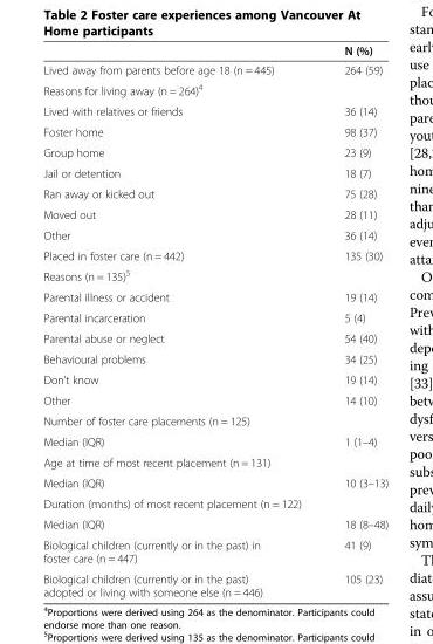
<table><thead><tr><td></td><td>N (%)</td></tr></thead><tbody><tr><td>Lived away from parents before age 18 (n = 445)</td><td>264 (59)</td></tr><tr><td colspan="2">Reasons for living away (n = 264)<sup>4</sup></td></tr><tr><td>Lived with relatives or friends</td><td>36 (14)</td></tr><tr><td>Foster home</td><td>98 (37)</td></tr><tr><td>Group home</td><td>23 (9)</td></tr><tr><td>Jail or detention</td><td>18 (7)</td></tr><tr><td>Ran away or kicked out</td><td>75 (28)</td></tr><tr><td>Moved out</td><td>28 (11)</td></tr><tr><td>Other</td><td>36 (14)</td></tr><tr><td>Placed in foster care (n = 442)</td><td>135 (30)</td></tr><tr><td colspan="2">Reasons (n = 135)<sup>5</sup></td></tr><tr><td>Parental illness or accident</td><td>19 (14)</td></tr><tr><td>Parental incarceration</td><td>5 (4)</td></tr><tr><td>Parental abuse or neglect</td><td>54 (40)</td></tr><tr><td>Behavioural problems</td><td>34 (25)</td></tr><tr><td>Don’t know</td><td>19 (14)</td></tr><tr><td>Other</td><td>14 (10)</td></tr><tr><td colspan="2">Number of foster care placements (n = 125)</td></tr><tr><td>Median (IQR)</td><td>1 (1–4)</td></tr><tr><td colspan="2">Age at time of most recent placement (n = 131)</td></tr><tr><td>Median (IQR)</td><td>10 (3–13)</td></tr><tr><td colspan="2">Duration (months) of most recent placement (n = 122)</td></tr><tr><td>Median (IQR)</td><td>18 (8–48)</td></tr><tr><td>Biological children (currently or in the past) in foster care (n = 447)</td><td>41 (9)</td></tr><tr><td>Biological children (currently or in the past) adopted or living with someone else (n = 446)</td><td>105 (23)</td></tr></tbody></table>